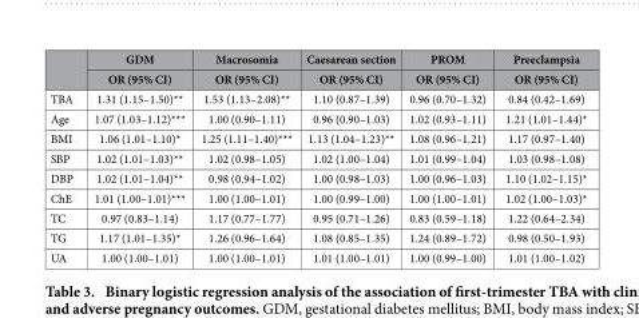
<table><thead><tr><td rowspan="2"></td><td rowspan="2">GDM OR (95% CI)</td><td rowspan="2">Macrosomia OR (95% CI)</td><td rowspan="2">Caesarean section OR (95% CI)</td><td rowspan="2">PROM OR (95% CI)</td><td rowspan="2">Preeclampsia OR (95% CI)</td></tr><tr></tr></thead><tbody><tr><td>TBA</td><td>1.31 (1.15–1.50)**</td><td>1.53 (1.13–2.08)**</td><td>1.10 (0.87–1.39)</td><td>0.96 (0.70–1.32)</td><td>0.84 (0.42–1.69)</td></tr><tr><td>Age</td><td>1.07 (1.03–1.12)***</td><td>1.00 (0.90–1.11)</td><td>0.96 (0.90–1.03)</td><td>1.02 (0.93–1.11)</td><td>1.21 (1.01–1.44)*</td></tr><tr><td>BMI</td><td>1.06 (1.01–1.10)*</td><td>1.25 (1.11–1.40)***</td><td>1.13 (1.04–1.23)**</td><td>1.08 (0.96–1.21)</td><td>1.17 (0.97–1.40)</td></tr><tr><td>SBP</td><td>1.02 (1.01–1.03)**</td><td>1.02 (0.98–1.05)</td><td>1.02 (1.00–1.04)</td><td>1.01 (0.99–1.04)</td><td>1.03 (0.98–1.08)</td></tr><tr><td>DBP</td><td>1.02 (1.01–1.04)**</td><td>0.98 (0.94–1.02)</td><td>1.00 (0.98–1.03)</td><td>1.00 (0.96–1.03)</td><td>1.10 (1.02–1.15)*</td></tr><tr><td>ChE</td><td>1.01 (1.00–1.01)***</td><td>1.00 (1.00–1.01)</td><td>1.00 (0.99–1.00)</td><td>1.00 (1.00–1.01)</td><td>1.02 (1.00–1.03)*</td></tr><tr><td>TC</td><td>0.97 (0.83–1.14)</td><td>1.17 (0.77–1.77)</td><td>0.95 (0.71–1.26)</td><td>0.83 (0.59–1.18)</td><td>1.22 (0.64–2.34)</td></tr><tr><td>TG</td><td>1.17 (1.01–1.35)*</td><td>1.26 (0.96–1.64)</td><td>1.08 (0.85–1.35)</td><td>1.24 (0.89–1.72)</td><td>0.98 (0.50–1.93)</td></tr><tr><td>UA</td><td>1.00 (1.00–1.01)</td><td>1.00 (1.00–1.01)</td><td>1.01 (1.00–1.01)</td><td>1.00 (0.99–1.00)</td><td>1.01 (1.00–1.02)</td></tr></tbody></table>